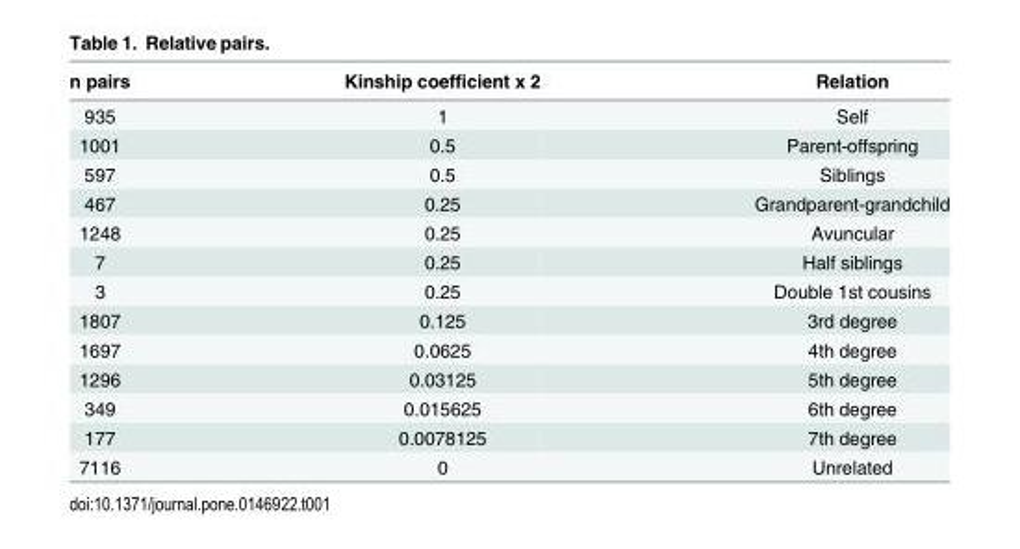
<table><thead><tr><td>n pairs</td><td>Kinship coefficient x 2</td><td>Relation</td></tr></thead><tbody><tr><td>935</td><td>1</td><td>Self</td></tr><tr><td>1001</td><td>0.5</td><td>Parent-offspring</td></tr><tr><td>597</td><td>0.5</td><td>Siblings</td></tr><tr><td>467</td><td>0.25</td><td>Grandparent-grandchild</td></tr><tr><td>1248</td><td>0.25</td><td>Avuncular</td></tr><tr><td>7</td><td>0.25</td><td>Half siblings</td></tr><tr><td>3</td><td>0.25</td><td>Double 1st cousins</td></tr><tr><td>1807</td><td>0.125</td><td>3rd degree</td></tr><tr><td>1697</td><td>0.0625</td><td>4th degree</td></tr><tr><td>1296</td><td>0.03125</td><td>5th degree</td></tr><tr><td>349</td><td>0.015625</td><td>6th degree</td></tr><tr><td>177</td><td>0.0078125</td><td>7th degree</td></tr><tr><td>7116</td><td>0</td><td>Unrelated</td></tr></tbody></table>